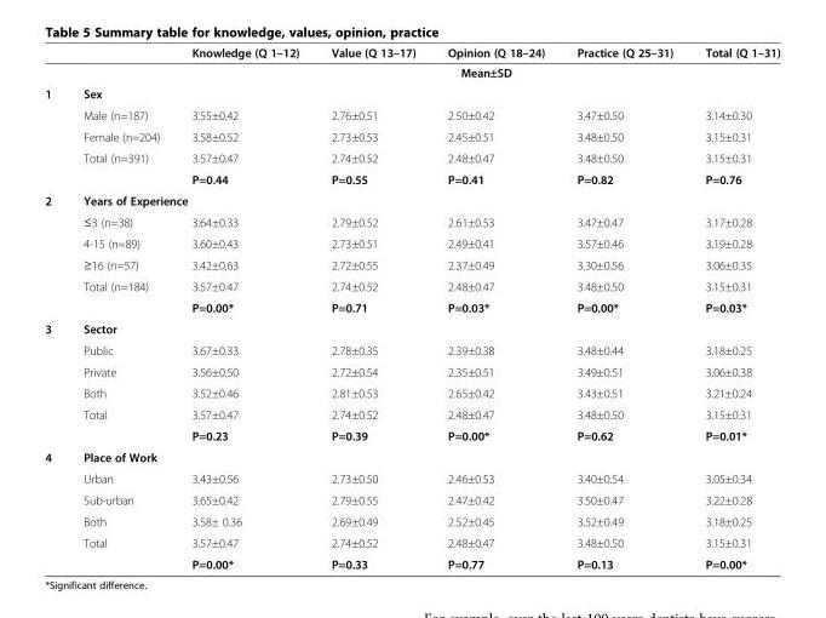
<table><thead><tr><td></td><td></td><td>Knowledge (Q 1–12)</td><td>Value (Q 13–17)</td><td>Opinion (Q 18–24)</td><td>Practice (Q 25–31)</td><td>Total (Q 1–31)</td></tr></thead><tbody><tr><td colspan="7">Mean±SD</td></tr><tr><td rowspan="5">1</td><td>Sex</td><td></td><td></td><td></td><td></td><td></td></tr><tr><td>Male (n=187)</td><td>3.55±0.42</td><td>2.76±0.51</td><td>2.50±0.42</td><td>3.47±0.50</td><td>3.14±0.30</td></tr><tr><td>Female (n=204)</td><td>3.58±0.52</td><td>2.73±0.53</td><td>2.45±0.51</td><td>3.48±0.50</td><td>3.15±0.31</td></tr><tr><td>Total (n=391)</td><td>3.57±0.47</td><td>2.74±0.52</td><td>2.48±0.47</td><td>3.48±0.50</td><td>3.15±0.31</td></tr><tr><td></td><td>P=0.44</td><td>P=0.55</td><td>P=0.41</td><td>P=0.82</td><td>P=0.76</td></tr><tr><td rowspan="6">2</td><td>Years of Experience</td><td></td><td></td><td></td><td></td><td></td></tr><tr><td>≤3 (n=38)</td><td>3.64±0.33</td><td>2.79±0.52</td><td>2.61±0.53</td><td>3.47±0.47</td><td>3.17±0.28</td></tr><tr><td>4-15 (n=89)</td><td>3.60±0.43</td><td>2.73±0.51</td><td>2.49±0.41</td><td>3.57±0.46</td><td>3.19±0.28</td></tr><tr><td>≥16 (n=57)</td><td>3.42±0.63</td><td>2.72±0.55</td><td>2.37±0.49</td><td>3.30±0.56</td><td>3.06±0.35</td></tr><tr><td>Total (n=184)</td><td>3.57±0.47</td><td>2.74±0.52</td><td>2.48±0.47</td><td>3.48±0.50</td><td>3.15±0.31</td></tr><tr><td></td><td>P=0.00*</td><td>P=0.71</td><td>P=0.03*</td><td>P=0.00*</td><td>P=0.03*</td></tr><tr><td rowspan="6">3</td><td>Sector</td><td></td><td></td><td></td><td></td><td></td></tr><tr><td>Public</td><td>3.67±0.33</td><td>2.78±0.35</td><td>2.39±0.38</td><td>3.48±0.44</td><td>3.18±0.25</td></tr><tr><td>Private</td><td>3.56±0.50</td><td>2.72±0.54</td><td>2.35±0.51</td><td>3.49±0.51</td><td>3.06±0.38</td></tr><tr><td>Both</td><td>3.52±0.46</td><td>2.81±0.53</td><td>2.65±0.42</td><td>3.43±0.51</td><td>3.21±0.24</td></tr><tr><td>Total</td><td>3.57±0.47</td><td>2.74±0.52</td><td>2.48±0.47</td><td>3.48±0.50</td><td>3.15±0.31</td></tr><tr><td></td><td>P=0.23</td><td>P=0.39</td><td>P=0.00*</td><td>P=0.62</td><td>P=0.01*</td></tr><tr><td rowspan="6">4</td><td>Place of Work</td><td></td><td></td><td></td><td></td><td></td></tr><tr><td>Urban</td><td>3.43±0.56</td><td>2.73±0.50</td><td>2.46±0.53</td><td>3.40±0.54</td><td>3.05±0.34</td></tr><tr><td>Sub-urban</td><td>3.65±0.42</td><td>2.79±0.55</td><td>2.47±0.42</td><td>3.50±0.47</td><td>3.22±0.28</td></tr><tr><td>Both</td><td>3.58± 0.36</td><td>2.69±0.49</td><td>2.52±0.45</td><td>3.52±0.49</td><td>3.18±0.25</td></tr><tr><td>Total</td><td>3.57±0.47</td><td>2.74±0.52</td><td>2.48±0.47</td><td>3.48±0.50</td><td>3.15±0.31</td></tr><tr><td></td><td>P=0.00*</td><td>P=0.33</td><td>P=0.77</td><td>P=0.13</td><td>P=0.00*</td></tr></tbody></table>